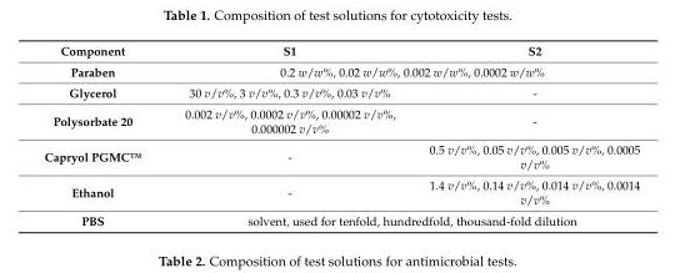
<table><thead><tr><td>Component</td><td>S1</td><td>S2</td></tr></thead><tbody><tr><td>Paraben</td><td colspan="2">0.2 w/w%, 0.02 w/w%, 0.002 w/w%, 0.0002 w/w%</td></tr><tr><td>Glycerol</td><td>30 v/v%, 3 v/v%, 0.3 v/v%, 0.03 v/v%</td><td>-</td></tr><tr><td>Polysorbate 20</td><td>0.002 v/v%, 0.0002 v/v%, 0.00002 v/v%, 0.000002 v/v%</td><td>-</td></tr><tr><td>Capryol PGMC™</td><td>-</td><td>0.5 v/v%, 0.05 v/v%, 0.005 v/v%, 0.0005 v/v%</td></tr><tr><td>Ethanol</td><td>-</td><td>1.4 v/v%, 0.14 v/v%, 0.014 v/v%, 0.0014 v/v%</td></tr><tr><td>PBS</td><td colspan="2">solvent, used for tenfold, hundredfold, thousand-fold dilution</td></tr></tbody></table>